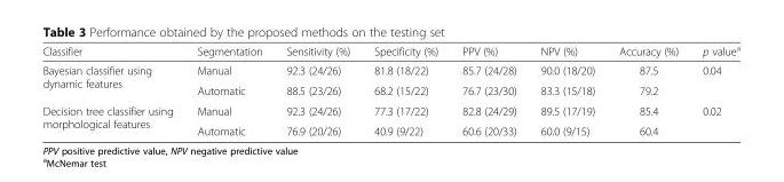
<table><thead><tr><td>Classifier</td><td>Segmentation</td><td>Sensitivity (%)</td><td>Specificity (%)</td><td>PPV (%)</td><td>NPV (%)</td><td>Accuracy (%)</td><td>p value<sup>a</sup></td></tr></thead><tbody><tr><td rowspan="2">Bayesian classifier using dynamic features</td><td>Manual</td><td>92.3 (24/26)</td><td>81.8 (18/22)</td><td>85.7 (24/28)</td><td>90.0 (18/20)</td><td>87.5</td><td rowspan="2">0.04</td></tr><tr><td>Automatic</td><td>88.5 (23/26)</td><td>68.2 (15/22)</td><td>76.7 (23/30)</td><td>83.3 (15/18)</td><td>79.2</td></tr><tr><td rowspan="2">Decision tree classifier using morphological features</td><td>Manual</td><td>92.3 (24/26)</td><td>77.3 (17/22)</td><td>82.8 (24/29)</td><td>89.5 (17/19)</td><td>85.4</td><td>0.02</td></tr><tr><td>Automatic</td><td>76.9 (20/26)</td><td>40.9 (9/22)</td><td>60.6 (20/33)</td><td>60.0 (9/15)</td><td>60.4</td><td></td></tr></tbody></table>